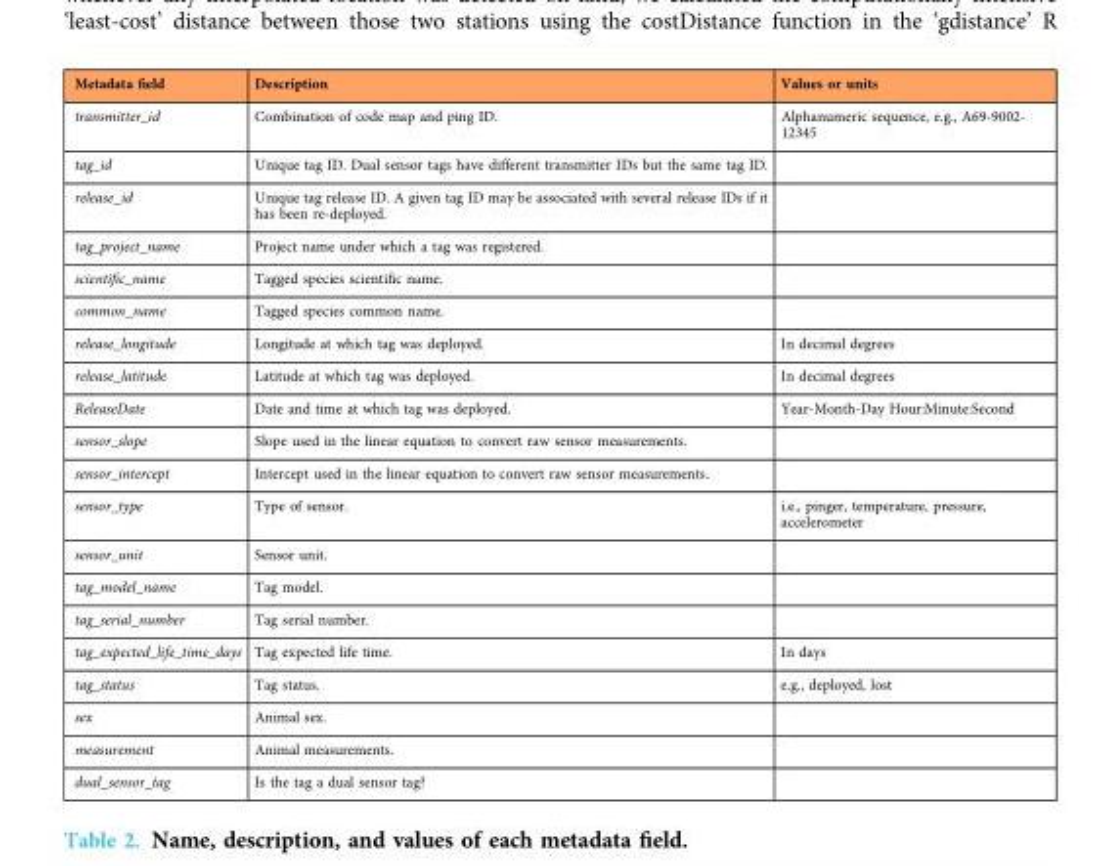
<table><thead><tr><td>Metadata field</td><td>Description</td><td>Values or units</td></tr></thead><tbody><tr><td>transmitter_id</td><td>Combination of code map and ping ID.</td><td>Alphanumeric sequence, e.g., A69-9002- 12345</td></tr><tr><td>tag_id</td><td>Unique tag ID. Dual sensor tags have different transmitter IDs but the same tag ID.</td><td></td></tr><tr><td>release_id</td><td>Unique tag release ID. A given tag ID may be associated with several release IDs if it has been re-deployed.</td><td></td></tr><tr><td>tag_project_name</td><td>Project name under which a tag was registered.</td><td></td></tr><tr><td>scientific_name</td><td>Tagged species scientific name.</td><td></td></tr><tr><td>common_name</td><td>Tagged species common name.</td><td></td></tr><tr><td>release_longitude</td><td>Longitude at which tag was deployed.</td><td>In decimal degrees</td></tr><tr><td>release_latitude</td><td>Latitude at which tag was deployed.</td><td>In decimal degrees</td></tr><tr><td>ReleaseDate</td><td>Date and time at which tag was deployed.</td><td>Year-Month-Day Hour:Minute:Second</td></tr><tr><td>sensor_slope</td><td>Slope used in the linear equation to convert raw sensor measurements.</td><td></td></tr><tr><td>sensor_intercept</td><td>Intercept used in the linear equation to convert raw sensor measurements.</td><td></td></tr><tr><td>sensor_type</td><td>Type of sensor.</td><td>i.e., pinger, temperature, pressure, accelerometer</td></tr><tr><td>sensor_unit</td><td>Sensor unit.</td><td></td></tr><tr><td>tag_model_name</td><td>Tag model.</td><td></td></tr><tr><td>tag_serial_number</td><td>Tag serial number.</td><td></td></tr><tr><td>tag_expected_life_time_days</td><td>Tag expected life time.</td><td>In days</td></tr><tr><td>tag_status</td><td>Tag status.</td><td>e.g., deployed, lost</td></tr><tr><td>sex</td><td>Animal sex.</td><td></td></tr><tr><td>measurement</td><td>Animal measurements.</td><td></td></tr><tr><td>dual_sensor_tag</td><td>Is the tag a dual sensor tag?</td><td></td></tr></tbody></table>